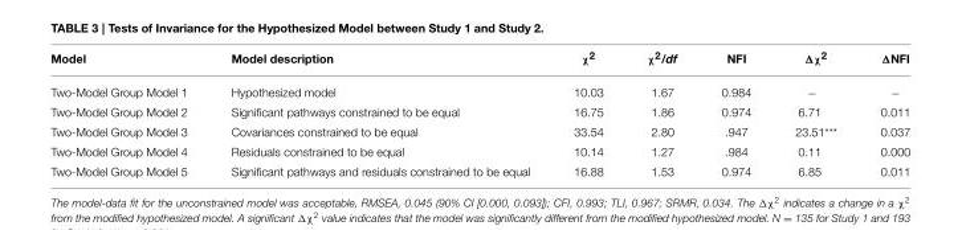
<table><thead><tr><td>Model</td><td>Model description</td><td>χ<sup>2</sup></td><td>χ<sup>2</sup>/df</td><td>NFI</td><td>Δχ<sup>2</sup></td><td>ΔNFI</td></tr></thead><tbody><tr><td>Two-Model Group Model 1</td><td>Hypothesized model</td><td>10.03</td><td>1.67</td><td>0.984</td><td>−</td><td>−</td></tr><tr><td>Two-Model Group Model 2</td><td>Significant pathways constrained to be equal</td><td>16.75</td><td>1.86</td><td>0.974</td><td>6.71</td><td>0.011</td></tr><tr><td>Two-Model Group Model 3</td><td>Covariances constrained to be equal</td><td>33.54</td><td>2.80</td><td>.947</td><td>23.51***</td><td>0.037</td></tr><tr><td>Two-Model Group Model 4</td><td>Residuals constrained to be equal</td><td>10.14</td><td>1.27</td><td>.984</td><td>0.11</td><td>0.000</td></tr><tr><td>Two-Model Group Model 5</td><td>Significant pathways and residuals constrained to be equal</td><td>16.88</td><td>1.53</td><td>0.974</td><td>6.85</td><td>0.011</td></tr></tbody></table>